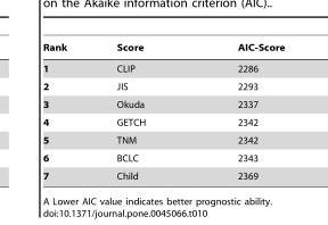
<table><thead><tr><td>Rank</td><td>Score</td><td>AIC-Score</td></tr></thead><tbody><tr><td>1</td><td>CLIP</td><td>2286</td></tr><tr><td>2</td><td>JIS</td><td>2293</td></tr><tr><td>3</td><td>Okuda</td><td>2337</td></tr><tr><td>4</td><td>GETCH</td><td>2342</td></tr><tr><td>5</td><td>TNM</td><td>2342</td></tr><tr><td>6</td><td>BCLC</td><td>2343</td></tr><tr><td>7</td><td>Child</td><td>2369</td></tr></tbody></table>